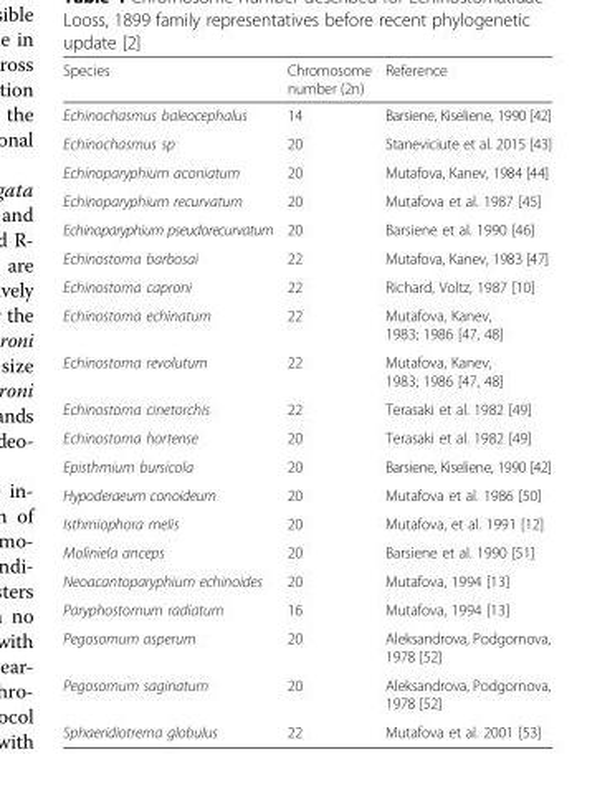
<table><thead><tr><td>Species</td><td>Chromosome number (2n)</td><td>Reference</td></tr></thead><tbody><tr><td>Echinochasmus baleocephalus</td><td>14</td><td>Barsiene, Kiseliene, 1990 [42]</td></tr><tr><td>Echinochasmus sp</td><td>20</td><td>Staneviciute et al. 2015 [43]</td></tr><tr><td>Echinoparyphium aconiatum</td><td>20</td><td>Mutafova, Kanev, 1984 [44]</td></tr><tr><td>Echinoparyphium recurvatum</td><td>20</td><td>Mutafova et al. 1987 [45]</td></tr><tr><td>Echinoparyphium pseudorecurvatum</td><td>20</td><td>Barsiene et al. 1990 [46]</td></tr><tr><td>Echinostoma barbosai</td><td>22</td><td>Mutafova, Kanev, 1983 [47]</td></tr><tr><td>Echinostoma caproni</td><td>22</td><td>Richard, Voltz, 1987 [10]</td></tr><tr><td>Echinostoma echinatum</td><td>22</td><td>Mutafova, Kanev, 1983; 1986 [47, 48]</td></tr><tr><td>Echinostoma revolutum</td><td>22</td><td>Mutafova, Kanev, 1983; 1986 [47, 48]</td></tr><tr><td>Echinostoma cinetorchis</td><td>22</td><td>Terasaki et al. 1982 [49]</td></tr><tr><td>Echinostoma hortense</td><td>20</td><td>Terasaki et al. 1982 [49]</td></tr><tr><td>Episthmium bursicola</td><td>20</td><td>Barsiene, Kiseliene, 1990 [42]</td></tr><tr><td>Hypoderaeum conoideum</td><td>20</td><td>Mutafova et al. 1986 [50]</td></tr><tr><td>Isthmiophora melis</td><td>20</td><td>Mutafova, et al. 1991 [12]</td></tr><tr><td>Moliniela anceps</td><td>20</td><td>Barsiene et al. 1990 [51]</td></tr><tr><td>Neoacantoparyphium echinoides</td><td>20</td><td>Mutafova, 1994 [13]</td></tr><tr><td>Paryphostomum radiatum</td><td>16</td><td>Mutafova, 1994 [13]</td></tr><tr><td>Pegosomum asperum</td><td>20</td><td>Aleksandrova, Podgornova, 1978 [52]</td></tr><tr><td>Pegosomum saginatum</td><td>20</td><td>Aleksandrova, Podgornova, 1978 [52]</td></tr><tr><td>Sphaeridiotrema globulus</td><td>22</td><td>Mutafova et al. 2001 [53]</td></tr></tbody></table>